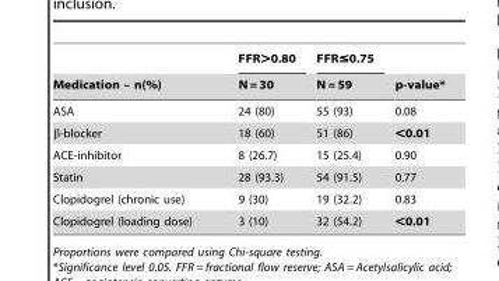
<table><thead><tr><td rowspan="2">Medication – n(%)</td><td rowspan="2">FFR&gt;0.80 N = 30</td><td rowspan="2">FFR≤0.75 N = 59</td><td rowspan="2">p-value*</td></tr><tr></tr></thead><tbody><tr><td>ASA</td><td>24 (80)</td><td>55 (93)</td><td>0.08</td></tr><tr><td>β-blocker</td><td>18 (60)</td><td>51 (86)</td><td>&lt;0.01</td></tr><tr><td>ACE-inhibitor</td><td>8 (26.7)</td><td>15 (25.4)</td><td>0.90</td></tr><tr><td>Statin</td><td>28 (93.3)</td><td>54 (91.5)</td><td>0.77</td></tr><tr><td>Clopidogrel (chronic use)</td><td>9 (30)</td><td>19 (32.2)</td><td>0.83</td></tr><tr><td>Clopidogrel (loading dose)</td><td>3 (10)</td><td>32 (54.2)</td><td>&lt;0.01</td></tr></tbody></table>